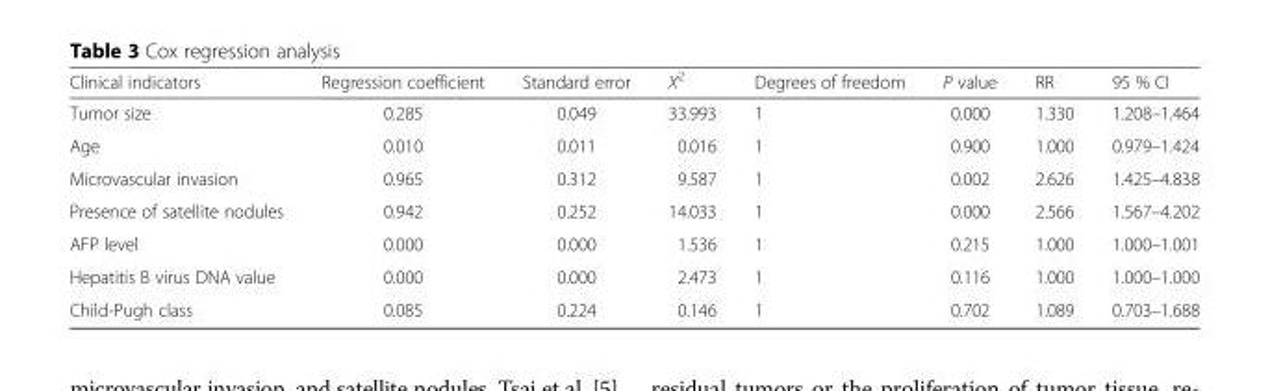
<table><thead><tr><td>Clinical indicators</td><td>Regression coefficient</td><td>Standard error</td><td>X<sup>2</sup></td><td>Degrees of freedom</td><td>P value</td><td>RR</td><td>95 % CI</td></tr></thead><tbody><tr><td>Tumor size</td><td>0.285</td><td>0.049</td><td>33.993</td><td>1</td><td>0.000</td><td>1.330</td><td>1.208–1.464</td></tr><tr><td>Age</td><td>0.010</td><td>0.011</td><td>0.016</td><td>1</td><td>0.900</td><td>1.000</td><td>0.979–1.424</td></tr><tr><td>Microvascular invasion</td><td>0.965</td><td>0.312</td><td>9.587</td><td>1</td><td>0.002</td><td>2.626</td><td>1.425–4.838</td></tr><tr><td>Presence of satellite nodules</td><td>0.942</td><td>0.252</td><td>14.033</td><td>1</td><td>0.000</td><td>2.566</td><td>1.567–4.202</td></tr><tr><td>AFP level</td><td>0.000</td><td>0.000</td><td>1.536</td><td>1</td><td>0.215</td><td>1.000</td><td>1.000–1.001</td></tr><tr><td>Hepatitis B virus DNA value</td><td>0.000</td><td>0.000</td><td>2.473</td><td>1</td><td>0.116</td><td>1.000</td><td>1.000–1.000</td></tr><tr><td>Child-Pugh class</td><td>0.085</td><td>0.224</td><td>0.146</td><td>1</td><td>0.702</td><td>1.089</td><td>0.703–1.688</td></tr></tbody></table>